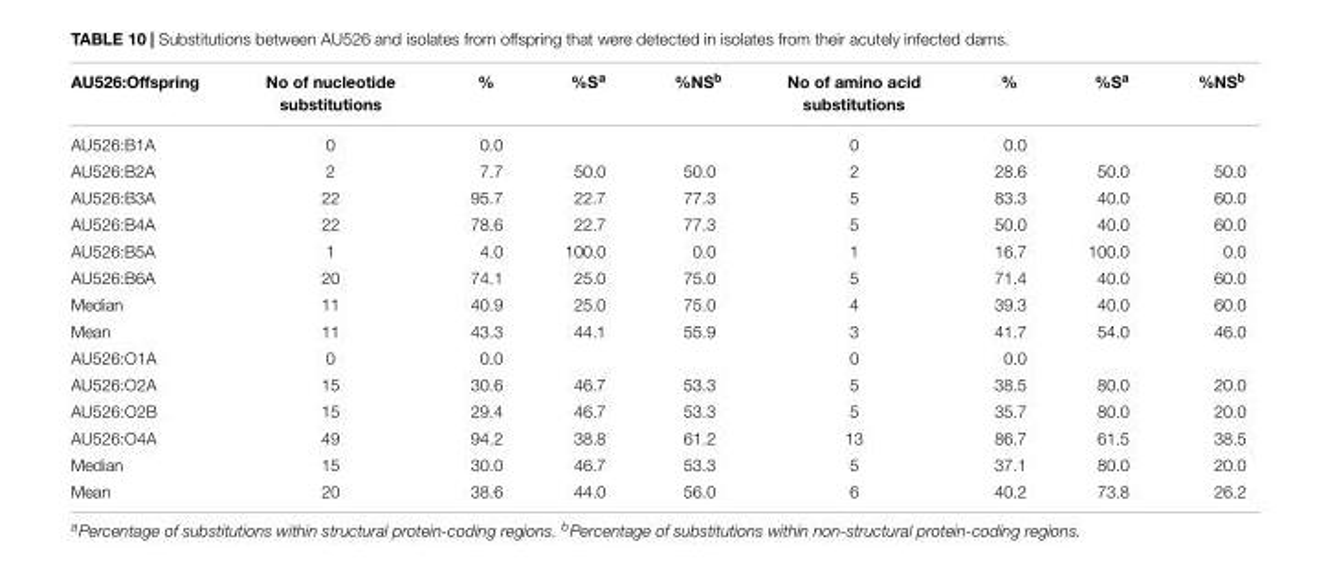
<table><thead><tr><td>AU526:Offspring</td><td>No of nucleotide substitutions</td><td>%</td><td>%S<sup>a</sup></td><td>%NS<sup>b</sup></td><td>No of amino acid substitutions</td><td>%</td><td>%S<sup>a</sup></td><td>%NS<sup>b</sup></td></tr></thead><tbody><tr><td>AU526:B1A</td><td>0</td><td>0.0</td><td></td><td></td><td>0</td><td>0.0</td><td></td><td></td></tr><tr><td>AU526:B2A</td><td>2</td><td>7.7</td><td>50.0</td><td>50.0</td><td>2</td><td>28.6</td><td>50.0</td><td>50.0</td></tr><tr><td>AU526:B3A</td><td>22</td><td>95.7</td><td>22.7</td><td>77.3</td><td>5</td><td>83.3</td><td>40.0</td><td>60.0</td></tr><tr><td>AU526:B4A</td><td>22</td><td>78.6</td><td>22.7</td><td>77.3</td><td>5</td><td>50.0</td><td>40.0</td><td>60.0</td></tr><tr><td>AU526:B5A</td><td>1</td><td>4.0</td><td>100.0</td><td>0.0</td><td>1</td><td>16.7</td><td>100.0</td><td>0.0</td></tr><tr><td>AU526:B6A</td><td>20</td><td>74.1</td><td>25.0</td><td>75.0</td><td>5</td><td>71.4</td><td>40.0</td><td>60.0</td></tr><tr><td>Median</td><td>11</td><td>40.9</td><td>25.0</td><td>75.0</td><td>4</td><td>39.3</td><td>40.0</td><td>60.0</td></tr><tr><td>Mean</td><td>11</td><td>43.3</td><td>44.1</td><td>55.9</td><td>3</td><td>41.7</td><td>54.0</td><td>46.0</td></tr><tr><td>AU526:O1A</td><td>0</td><td>0.0</td><td></td><td></td><td>0</td><td>0.0</td><td></td><td></td></tr><tr><td>AU526:O2A</td><td>15</td><td>30.6</td><td>46.7</td><td>53.3</td><td>5</td><td>38.5</td><td>80.0</td><td>20.0</td></tr><tr><td>AU526:O2B</td><td>15</td><td>29.4</td><td>46.7</td><td>53.3</td><td>5</td><td>35.7</td><td>80.0</td><td>20.0</td></tr><tr><td>AU526:O4A</td><td>49</td><td>94.2</td><td>38.8</td><td>61.2</td><td>13</td><td>86.7</td><td>61.5</td><td>38.5</td></tr><tr><td>Median</td><td>15</td><td>30.0</td><td>46.7</td><td>53.3</td><td>5</td><td>37.1</td><td>80.0</td><td>20.0</td></tr><tr><td>Mean</td><td>20</td><td>38.6</td><td>44.0</td><td>56.0</td><td>6</td><td>40.2</td><td>73.8</td><td>26.2</td></tr></tbody></table>